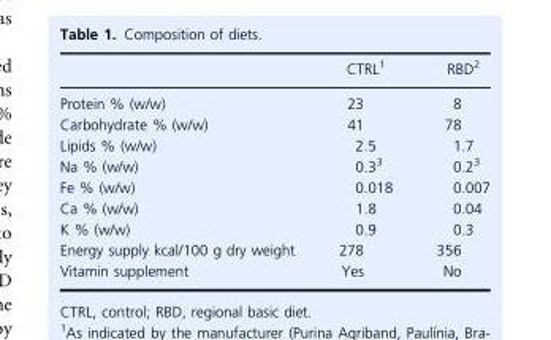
<table><thead><tr><td></td><td>CTRL<sup>1</sup></td><td>RBD<sup>2</sup></td></tr></thead><tbody><tr><td>Protein % (w/w)</td><td>23</td><td>8</td></tr><tr><td>Carbohydrate % (w/w)</td><td>41</td><td>78</td></tr><tr><td>Lipids % (w/w)</td><td>2.5</td><td>1.7</td></tr><tr><td>Na % (w/w)</td><td>0.3<sup>3</sup></td><td>0.2<sup>3</sup></td></tr><tr><td>Fe % (w/w)</td><td>0.018</td><td>0.007</td></tr><tr><td>Ca % (w/w)</td><td>1.8</td><td>0.04</td></tr><tr><td>K % (w/w)</td><td>0.9</td><td>0.3</td></tr><tr><td>Energy supply kcal/100 g dry weight</td><td>278</td><td>356</td></tr><tr><td>Vitamin supplement</td><td>Yes</td><td>No</td></tr></tbody></table>